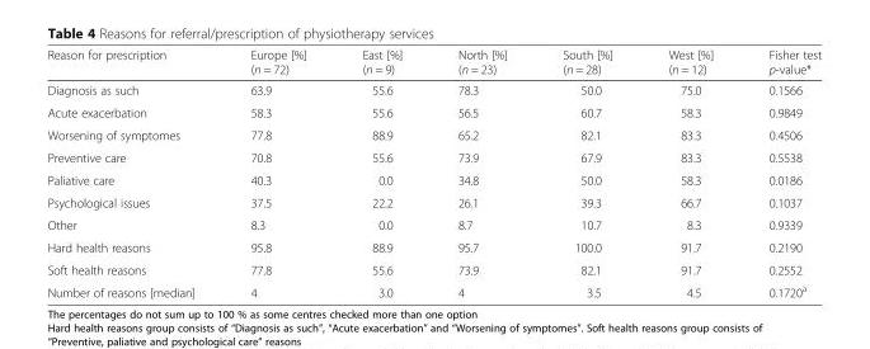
<table><thead><tr><td>Reason for prescription</td><td>Europe [%] (n = 72)</td><td>East [%] (n = 9)</td><td>North [%] (n = 23)</td><td>South [%] (n = 28)</td><td>West [%] (n = 12)</td><td>Fisher test p-value*</td></tr></thead><tbody><tr><td>Diagnosis as such</td><td>63.9</td><td>55.6</td><td>78.3</td><td>50.0</td><td>75.0</td><td>0.1566</td></tr><tr><td>Acute exacerbation</td><td>58.3</td><td>55.6</td><td>56.5</td><td>60.7</td><td>58.3</td><td>0.9849</td></tr><tr><td>Worsening of symptomes</td><td>77.8</td><td>88.9</td><td>65.2</td><td>82.1</td><td>83.3</td><td>0.4506</td></tr><tr><td>Preventive care</td><td>70.8</td><td>55.6</td><td>73.9</td><td>67.9</td><td>83.3</td><td>0.5538</td></tr><tr><td>Paliative care</td><td>40.3</td><td>0.0</td><td>34.8</td><td>50.0</td><td>58.3</td><td>0.0186</td></tr><tr><td>Psychological issues</td><td>37.5</td><td>22.2</td><td>26.1</td><td>39.3</td><td>66.7</td><td>0.1037</td></tr><tr><td>Other</td><td>8.3</td><td>0.0</td><td>8.7</td><td>10.7</td><td>8.3</td><td>0.9339</td></tr><tr><td>Hard health reasons</td><td>95.8</td><td>88.9</td><td>95.7</td><td>100.0</td><td>91.7</td><td>0.2190</td></tr><tr><td>Soft health reasons</td><td>77.8</td><td>55.6</td><td>73.9</td><td>82.1</td><td>91.7</td><td>0.2552</td></tr><tr><td>Number of reasons [median]</td><td>4</td><td>3.0</td><td>4</td><td>3.5</td><td>4.5</td><td>0.1720<sup>a</sup></td></tr></tbody></table>